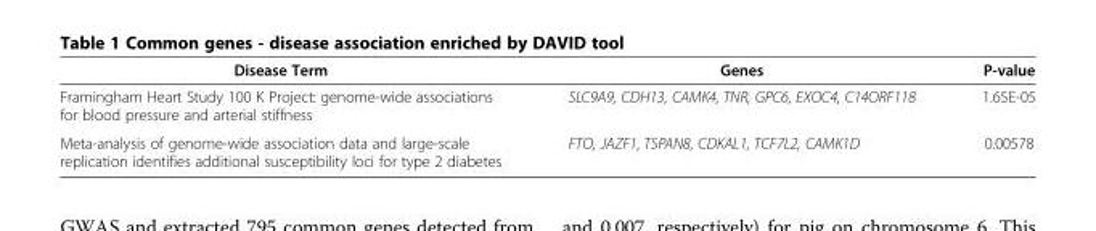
<table><thead><tr><td>Disease Term</td><td>Genes</td><td>P-value</td></tr></thead><tbody><tr><td>Framingham Heart Study 100 K Project: genome-wide associations for blood pressure and arterial stiffness</td><td>SLC9A9, CDH13, CAMK4, TNR, GPC6, EXOC4, C14ORF118</td><td>1.65E-05</td></tr><tr><td>Meta-analysis of genome-wide association data and large-scale replication identifies additional susceptibility loci for type 2 diabetes</td><td>FTO, JAZF1, TSPAN8, CDKAL1, TCF7L2, CAMK1D</td><td>0.00578</td></tr></tbody></table>